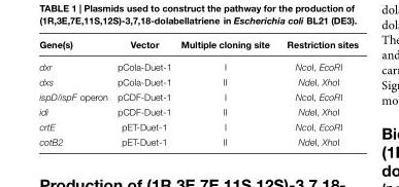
<table><thead><tr><td>Gene(s)</td><td>Vector</td><td>Multiple cloning site</td><td>Restriction sites</td></tr></thead><tbody><tr><td>dxr</td><td>pCola-Duet-1</td><td>I</td><td>NcoI, EcoRI</td></tr><tr><td>dxs</td><td>pCola-Duet-1</td><td>II</td><td>NdeI, XhoI</td></tr><tr><td>ispD/ispF operon</td><td>pCDF-Duet-1</td><td>I</td><td>NcoI, EcoRI</td></tr><tr><td>idi</td><td>pCDF-Duet-1</td><td>II</td><td>NdeI, XhoI</td></tr><tr><td>crtE</td><td>pET-Duet-1</td><td>I</td><td>NcoI, EcoRI</td></tr><tr><td>cotB2</td><td>pET-Duet-1</td><td>II</td><td>NdeI, XhoI</td></tr></tbody></table>